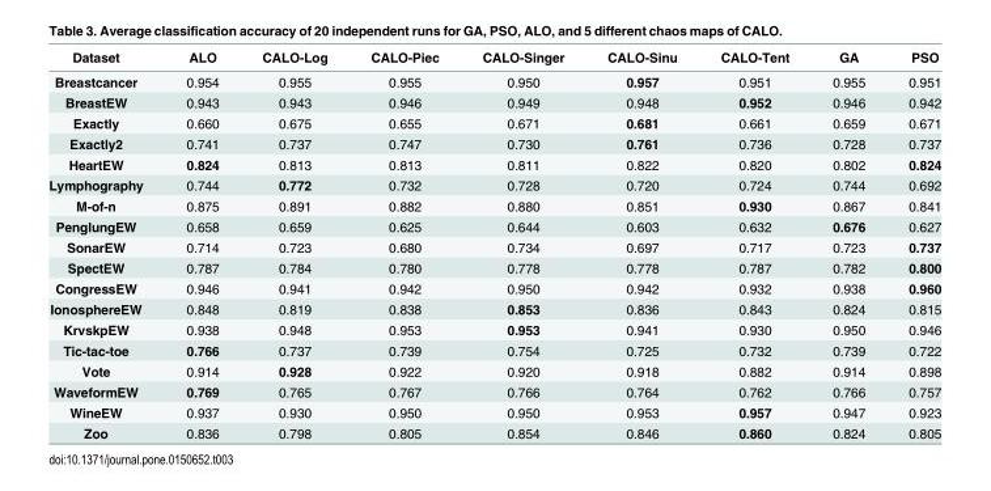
<table><thead><tr><td>Dataset</td><td>ALO</td><td>CALO-Log</td><td>CALO-Piec</td><td>CALO-Singer</td><td>CALO-Sinu</td><td>CALO-Tent</td><td>GA</td><td>PSO</td></tr></thead><tbody><tr><td>Breastcancer</td><td>0.954</td><td>0.955</td><td>0.955</td><td>0.950</td><td>0.957</td><td>0.951</td><td>0.955</td><td>0.951</td></tr><tr><td>BreastEW</td><td>0.943</td><td>0.943</td><td>0.946</td><td>0.949</td><td>0.948</td><td>0.952</td><td>0.946</td><td>0.942</td></tr><tr><td>Exactly</td><td>0.660</td><td>0.675</td><td>0.655</td><td>0.671</td><td>0.681</td><td>0.661</td><td>0.659</td><td>0.671</td></tr><tr><td>Exactly2</td><td>0.741</td><td>0.737</td><td>0.747</td><td>0.730</td><td>0.761</td><td>0.736</td><td>0.728</td><td>0.737</td></tr><tr><td>HeartEW</td><td>0.824</td><td>0.813</td><td>0.813</td><td>0.811</td><td>0.822</td><td>0.820</td><td>0.802</td><td>0.824</td></tr><tr><td>Lymphography</td><td>0.744</td><td>0.772</td><td>0.732</td><td>0.728</td><td>0.720</td><td>0.724</td><td>0.744</td><td>0.692</td></tr><tr><td>M-of-n</td><td>0.875</td><td>0.891</td><td>0.882</td><td>0.880</td><td>0.851</td><td>0.930</td><td>0.867</td><td>0.841</td></tr><tr><td>PenglungEW</td><td>0.658</td><td>0.659</td><td>0.625</td><td>0.644</td><td>0.603</td><td>0.632</td><td>0.676</td><td>0.627</td></tr><tr><td>SonarEW</td><td>0.714</td><td>0.723</td><td>0.680</td><td>0.734</td><td>0.697</td><td>0.717</td><td>0.723</td><td>0.737</td></tr><tr><td>SpectEW</td><td>0.787</td><td>0.784</td><td>0.780</td><td>0.778</td><td>0.778</td><td>0.787</td><td>0.782</td><td>0.800</td></tr><tr><td>CongressEW</td><td>0.946</td><td>0.941</td><td>0.942</td><td>0.950</td><td>0.942</td><td>0.932</td><td>0.938</td><td>0.960</td></tr><tr><td>IonosphereEW</td><td>0.848</td><td>0.819</td><td>0.838</td><td>0.853</td><td>0.836</td><td>0.843</td><td>0.824</td><td>0.815</td></tr><tr><td>KrvskpEW</td><td>0.938</td><td>0.948</td><td>0.953</td><td>0.953</td><td>0.941</td><td>0.930</td><td>0.950</td><td>0.946</td></tr><tr><td>Tic-tac-toe</td><td>0.766</td><td>0.737</td><td>0.739</td><td>0.754</td><td>0.725</td><td>0.732</td><td>0.739</td><td>0.722</td></tr><tr><td>Vote</td><td>0.914</td><td>0.928</td><td>0.922</td><td>0.920</td><td>0.918</td><td>0.882</td><td>0.914</td><td>0.898</td></tr><tr><td>WaveformEW</td><td>0.769</td><td>0.765</td><td>0.767</td><td>0.766</td><td>0.764</td><td>0.762</td><td>0.766</td><td>0.757</td></tr><tr><td>WineEW</td><td>0.937</td><td>0.930</td><td>0.950</td><td>0.950</td><td>0.953</td><td>0.957</td><td>0.947</td><td>0.923</td></tr><tr><td>Zoo</td><td>0.836</td><td>0.798</td><td>0.805</td><td>0.854</td><td>0.846</td><td>0.860</td><td>0.824</td><td>0.805</td></tr></tbody></table>